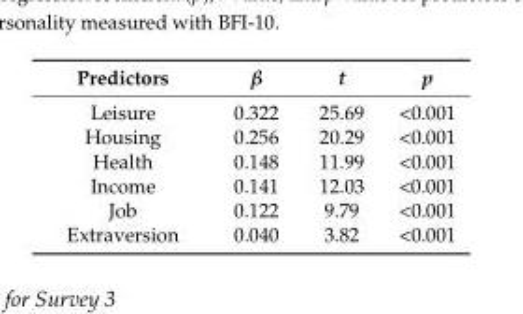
<table><thead><tr><td>Predictors</td><td>β</td><td>t</td><td>p</td></tr></thead><tbody><tr><td>Leisure</td><td>0.322</td><td>25.69</td><td>&lt;0.001</td></tr><tr><td>Housing</td><td>0.256</td><td>20.29</td><td>&lt;0.001</td></tr><tr><td>Health</td><td>0.148</td><td>11.99</td><td>&lt;0.001</td></tr><tr><td>Income</td><td>0.141</td><td>12.03</td><td>&lt;0.001</td></tr><tr><td>Job</td><td>0.122</td><td>9.79</td><td>&lt;0.001</td></tr><tr><td>Extraversion</td><td>0.040</td><td>3.82</td><td>&lt;0.001</td></tr></tbody></table>